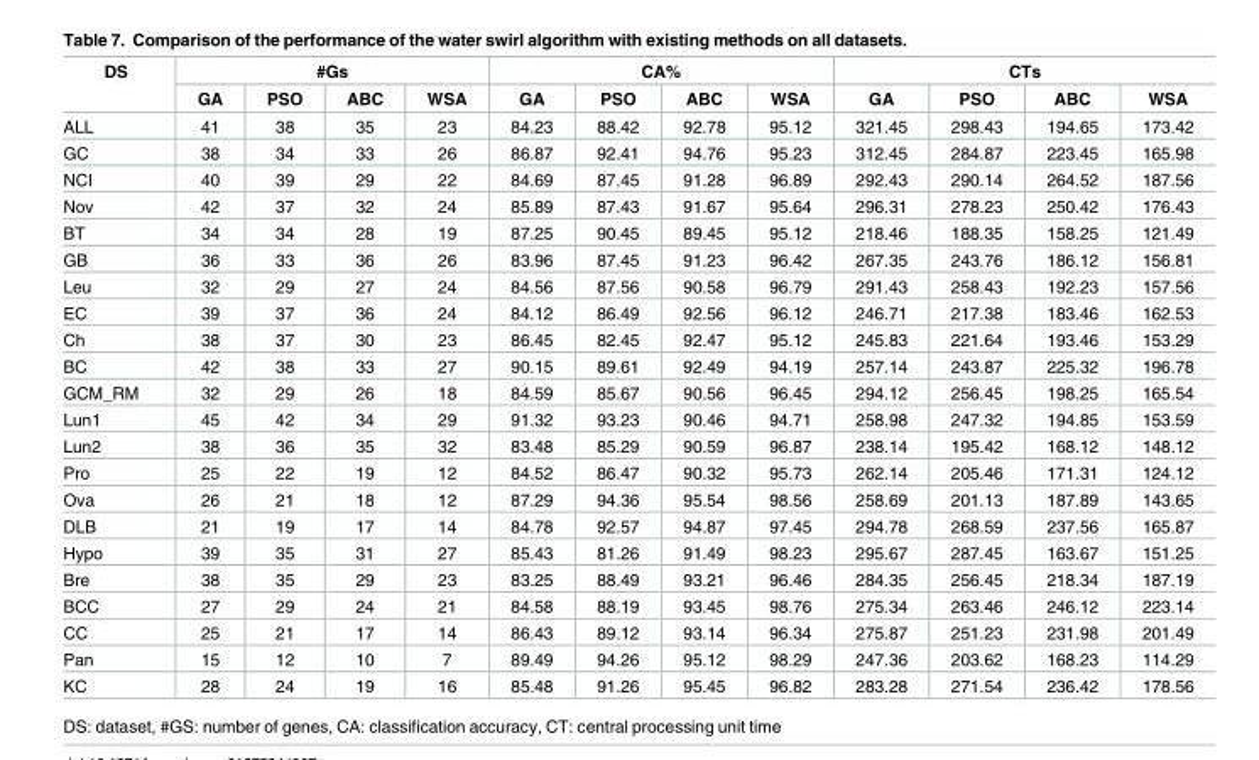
<table><thead><tr><td rowspan="2">DS</td><td colspan="4">#Gs</td><td colspan="4">CA%</td><td colspan="4">CTs</td></tr><tr><td>GA</td><td>PSO</td><td>ABC</td><td>WSA</td><td>GA</td><td>PSO</td><td>ABC</td><td>WSA</td><td>GA</td><td>PSO</td><td>ABC</td><td>WSA</td></tr></thead><tbody><tr><td>ALL</td><td>41</td><td>38</td><td>35</td><td>23</td><td>84.23</td><td>88.42</td><td>92.78</td><td>95.12</td><td>321.45</td><td>298.43</td><td>194.65</td><td>173.42</td></tr><tr><td>GC</td><td>38</td><td>34</td><td>33</td><td>26</td><td>86.87</td><td>92.41</td><td>94.76</td><td>95.23</td><td>312.45</td><td>284.87</td><td>223.45</td><td>165.98</td></tr><tr><td>NCI</td><td>40</td><td>39</td><td>29</td><td>22</td><td>84.69</td><td>87.45</td><td>91.28</td><td>96.89</td><td>292.43</td><td>290.14</td><td>264.52</td><td>187.56</td></tr><tr><td>Nov</td><td>42</td><td>37</td><td>32</td><td>24</td><td>85.89</td><td>87.43</td><td>91.67</td><td>95.64</td><td>296.31</td><td>278.23</td><td>250.42</td><td>176.43</td></tr><tr><td>BT</td><td>34</td><td>34</td><td>28</td><td>19</td><td>87.25</td><td>90.45</td><td>89.45</td><td>95.12</td><td>218.46</td><td>188.35</td><td>158.25</td><td>121.49</td></tr><tr><td>GB</td><td>36</td><td>33</td><td>36</td><td>26</td><td>83.96</td><td>87.45</td><td>91.23</td><td>96.42</td><td>267.35</td><td>243.76</td><td>186.12</td><td>156.81</td></tr><tr><td>Leu</td><td>32</td><td>29</td><td>27</td><td>24</td><td>84.56</td><td>87.56</td><td>90.58</td><td>96.79</td><td>291.43</td><td>258.43</td><td>192.23</td><td>157.56</td></tr><tr><td>EC</td><td>39</td><td>37</td><td>36</td><td>24</td><td>84.12</td><td>86.49</td><td>92.56</td><td>96.12</td><td>246.71</td><td>217.38</td><td>183.46</td><td>162.53</td></tr><tr><td>Ch</td><td>38</td><td>37</td><td>30</td><td>23</td><td>86.45</td><td>82.45</td><td>92.47</td><td>95.12</td><td>245.83</td><td>221.64</td><td>193.46</td><td>153.29</td></tr><tr><td>BC</td><td>42</td><td>38</td><td>33</td><td>27</td><td>90.15</td><td>89.61</td><td>92.49</td><td>94.19</td><td>257.14</td><td>243.87</td><td>225.32</td><td>196.78</td></tr><tr><td>GCM_RM</td><td>32</td><td>29</td><td>26</td><td>18</td><td>84.59</td><td>85.67</td><td>90.56</td><td>96.45</td><td>294.12</td><td>256.45</td><td>198.25</td><td>165.54</td></tr><tr><td>Lun1</td><td>45</td><td>42</td><td>34</td><td>29</td><td>91.32</td><td>93.23</td><td>90.46</td><td>94.71</td><td>258.98</td><td>247.32</td><td>194.85</td><td>153.59</td></tr><tr><td>Lun2</td><td>38</td><td>36</td><td>35</td><td>32</td><td>83.48</td><td>85.29</td><td>90.59</td><td>96.87</td><td>238.14</td><td>195.42</td><td>168.12</td><td>148.12</td></tr><tr><td>Pro</td><td>25</td><td>22</td><td>19</td><td>12</td><td>84.52</td><td>86.47</td><td>90.32</td><td>95.73</td><td>262.14</td><td>205.46</td><td>171.31</td><td>124.12</td></tr><tr><td>Ova</td><td>26</td><td>21</td><td>18</td><td>12</td><td>87.29</td><td>94.36</td><td>95.54</td><td>98.56</td><td>258.69</td><td>201.13</td><td>187.89</td><td>143.65</td></tr><tr><td>DLB</td><td>21</td><td>19</td><td>17</td><td>14</td><td>84.78</td><td>92.57</td><td>94.87</td><td>97.45</td><td>294.78</td><td>268.59</td><td>237.56</td><td>165.87</td></tr><tr><td>Hypo</td><td>39</td><td>35</td><td>31</td><td>27</td><td>85.43</td><td>81.26</td><td>91.49</td><td>98.23</td><td>295.67</td><td>287.45</td><td>163.67</td><td>151.25</td></tr><tr><td>Bre</td><td>38</td><td>35</td><td>29</td><td>23</td><td>83.25</td><td>88.49</td><td>93.21</td><td>96.46</td><td>284.35</td><td>256.45</td><td>218.34</td><td>187.19</td></tr><tr><td>BCC</td><td>27</td><td>29</td><td>24</td><td>21</td><td>84.58</td><td>88.19</td><td>93.45</td><td>98.76</td><td>275.34</td><td>263.46</td><td>246.12</td><td>223.14</td></tr><tr><td>CC</td><td>25</td><td>21</td><td>17</td><td>14</td><td>86.43</td><td>89.12</td><td>93.14</td><td>96.34</td><td>275.87</td><td>251.23</td><td>231.98</td><td>201.49</td></tr><tr><td>Pan</td><td>15</td><td>12</td><td>10</td><td>7</td><td>89.49</td><td>94.26</td><td>95.12</td><td>98.29</td><td>247.36</td><td>203.62</td><td>168.23</td><td>114.29</td></tr><tr><td>KC</td><td>28</td><td>24</td><td>19</td><td>16</td><td>85.48</td><td>91.26</td><td>95.45</td><td>96.82</td><td>283.28</td><td>271.54</td><td>236.42</td><td>178.56</td></tr></tbody></table>